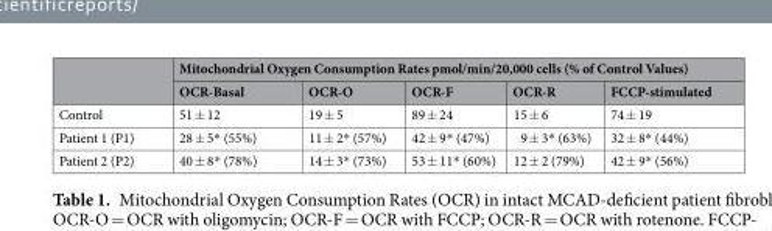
<table><thead><tr><td rowspan="2"></td><td colspan="5">Mitochondrial Oxygen Consumption Rates pmol/min/20,000 cells (% of Control Values)</td></tr><tr><td>OCR-Basal</td><td>OCR-O</td><td>OCR-F</td><td>OCR-R</td><td>FCCP-stimulated</td></tr></thead><tbody><tr><td>Control</td><td>51 ± 12</td><td>19 ± 5</td><td>89 ± 24</td><td>15 ± 6</td><td>74 ± 19</td></tr><tr><td>Patient 1 (P1)</td><td>28 ± 5* (55%)</td><td>11 ± 2* (57%)</td><td>42 ± 9* (47%)</td><td>9 ± 3* (63%)</td><td>32 ± 8* (44%)</td></tr><tr><td>Patient 2 (P2)</td><td>40 ± 8* (78%)</td><td>14 ± 3* (73%)</td><td>53 ± 11* (60%)</td><td>12 ± 2 (79%)</td><td>42 ± 9* (56%)</td></tr></tbody></table>